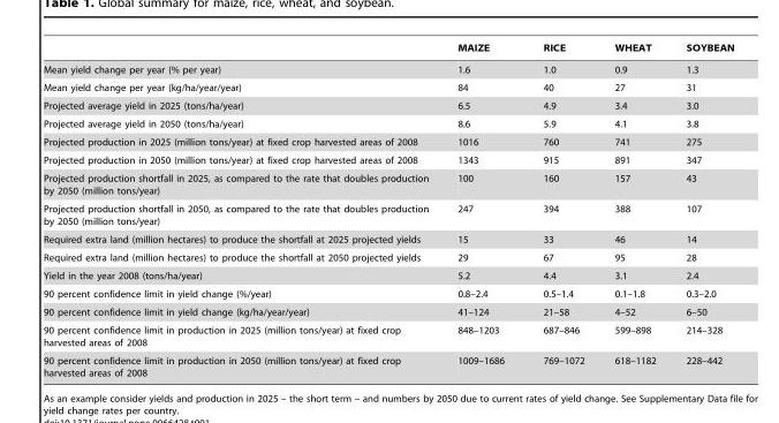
<table><thead><tr><td></td><td>MAIZE</td><td>RICE</td><td>WHEAT</td><td>SOYBEAN</td></tr></thead><tbody><tr><td>Mean yield change per year (% per year)</td><td>1.6</td><td>1.0</td><td>0.9</td><td>1.3</td></tr><tr><td>Mean yield change per year (kg/ha/year/year)</td><td>84</td><td>40</td><td>27</td><td>31</td></tr><tr><td>Projected average yield in 2025 (tons/ha/year)</td><td>6.5</td><td>4.9</td><td>3.4</td><td>3.0</td></tr><tr><td>Projected average yield in 2050 (tons/ha/year)</td><td>8.6</td><td>5.9</td><td>4.1</td><td>3.8</td></tr><tr><td>Projected production in 2025 (million tons/year) at fixed crop harvested areas of 2008</td><td>1016</td><td>760</td><td>741</td><td>275</td></tr><tr><td>Projected production in 2050 (million tons/year) at fixed crop harvested areas of 2008</td><td>1343</td><td>915</td><td>891</td><td>347</td></tr><tr><td>Projected production shortfall in 2025, as compared to the rate that doubles production by 2050 (million tons/year)</td><td>100</td><td>160</td><td>157</td><td>43</td></tr><tr><td>Projected production shortfall in 2050, as compared to the rate that doubles production by 2050 (million tons/year)</td><td>247</td><td>394</td><td>388</td><td>107</td></tr><tr><td>Required extra land (million hectares) to produce the shortfall at 2025 projected yields</td><td>15</td><td>33</td><td>46</td><td>14</td></tr><tr><td>Required extra land (million hectares) to produce the shortfall at 2050 projected yields</td><td>29</td><td>67</td><td>95</td><td>28</td></tr><tr><td>Yield in the year 2008 (tons/ha/year)</td><td>5.2</td><td>4.4</td><td>3.1</td><td>2.4</td></tr><tr><td>90 percent confidence limit in yield change (%/year)</td><td>0.8–2.4</td><td>0.5–1.4</td><td>0.1–1.8</td><td>0.3–2.0</td></tr><tr><td>90 percent confidence limit in yield change (kg/ha/year/year)</td><td>41–124</td><td>21–58</td><td>4–52</td><td>6–50</td></tr><tr><td>90 percent confidence limit in production in 2025 (million tons/year) at fixed crop harvested areas of 2008</td><td>848–1203</td><td>687–846</td><td>599–898</td><td>214–328</td></tr><tr><td>90 percent confidence limit in production in 2050 (million tons/year) at fixed crop harvested areas of 2008</td><td>1009–1686</td><td>769–1072</td><td>618–1182</td><td>228–442</td></tr></tbody></table>